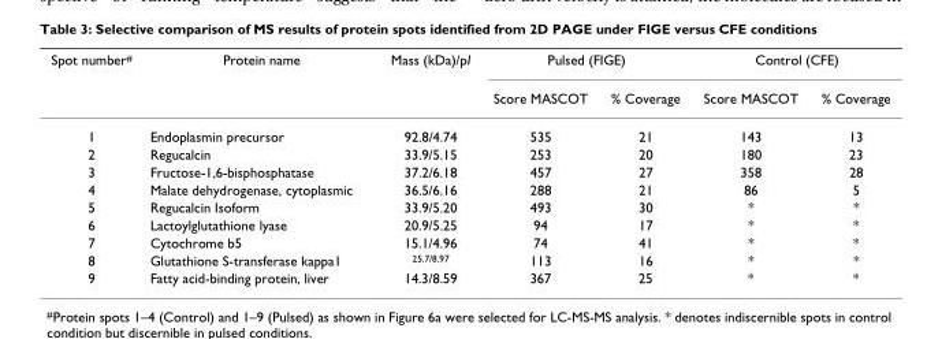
<table><thead><tr><td rowspan="2">Spot number<sup>#</sup></td><td rowspan="2">Protein name</td><td rowspan="2">Mass (kDa)/pI</td><td colspan="2">Pulsed (FIGE)</td><td colspan="2">Control (CFE)</td></tr><tr><td>Score MASCOT</td><td>% Coverage</td><td>Score MASCOT</td><td>% Coverage</td></tr></thead><tbody><tr><td>1</td><td>Endoplasmin precursor</td><td>92.8/4.74</td><td>535</td><td>21</td><td>143</td><td>13</td></tr><tr><td>2</td><td>Regucalcin</td><td>33.9/5.15</td><td>253</td><td>20</td><td>180</td><td>23</td></tr><tr><td>3</td><td>Fructose-1,6-bisphosphatase</td><td>37.2/6.18</td><td>457</td><td>27</td><td>358</td><td>28</td></tr><tr><td>4</td><td>Malate dehydrogenase, cytoplasmic</td><td>36.5/6.16</td><td>288</td><td>21</td><td>86</td><td>5</td></tr><tr><td>5</td><td>Regucalcin Isoform</td><td>33.9/5.20</td><td>493</td><td>30</td><td>*</td><td>*</td></tr><tr><td>6</td><td>Lactoylglutathione lyase</td><td>20.9/5.25</td><td>94</td><td>17</td><td>*</td><td>*</td></tr><tr><td>7</td><td>Cytochrome b5</td><td>15.1/4.96</td><td>74</td><td>41</td><td>*</td><td>*</td></tr><tr><td>8</td><td>Glutathione S-transferase kappa1</td><td><sup>25.7/8.97</sup></td><td>113</td><td>16</td><td>*</td><td>*</td></tr><tr><td>9</td><td>Fatty acid-binding protein, liver</td><td>14.3/8.59</td><td>367</td><td>25</td><td>*</td><td>*</td></tr></tbody></table>